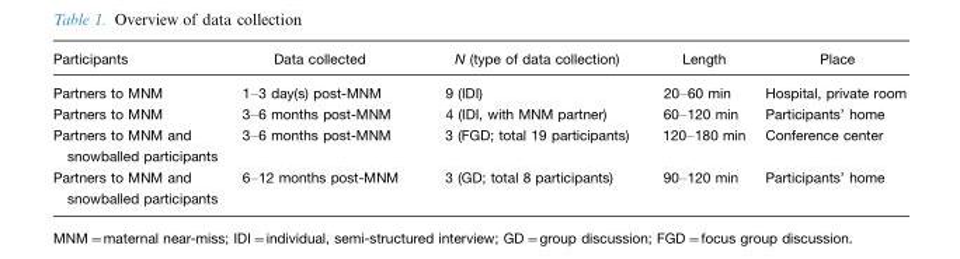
<table><thead><tr><td>Participants</td><td>Data collected</td><td>N (type of data collection)</td><td>Length</td><td>Place</td></tr></thead><tbody><tr><td>Partners to MNM</td><td>1–3 day(s) post-MNM</td><td>9 (IDI)</td><td>20–60 min</td><td>Hospital, private room</td></tr><tr><td>Partners to MNM</td><td>3–6 months post-MNM</td><td>4 (IDI, with MNM partner)</td><td>60–120 min</td><td>Participants’ home</td></tr><tr><td>Partners to MNM and snowballed participants</td><td>3–6 months post-MNM</td><td>3 (FGD; total 19 participants)</td><td>120–180 min</td><td>Conference center</td></tr><tr><td>Partners to MNM and snowballed participants</td><td>6–12 months post-MNM</td><td>3 (GD; total 8 participants)</td><td>90–120 min</td><td>Participants’ home</td></tr></tbody></table>